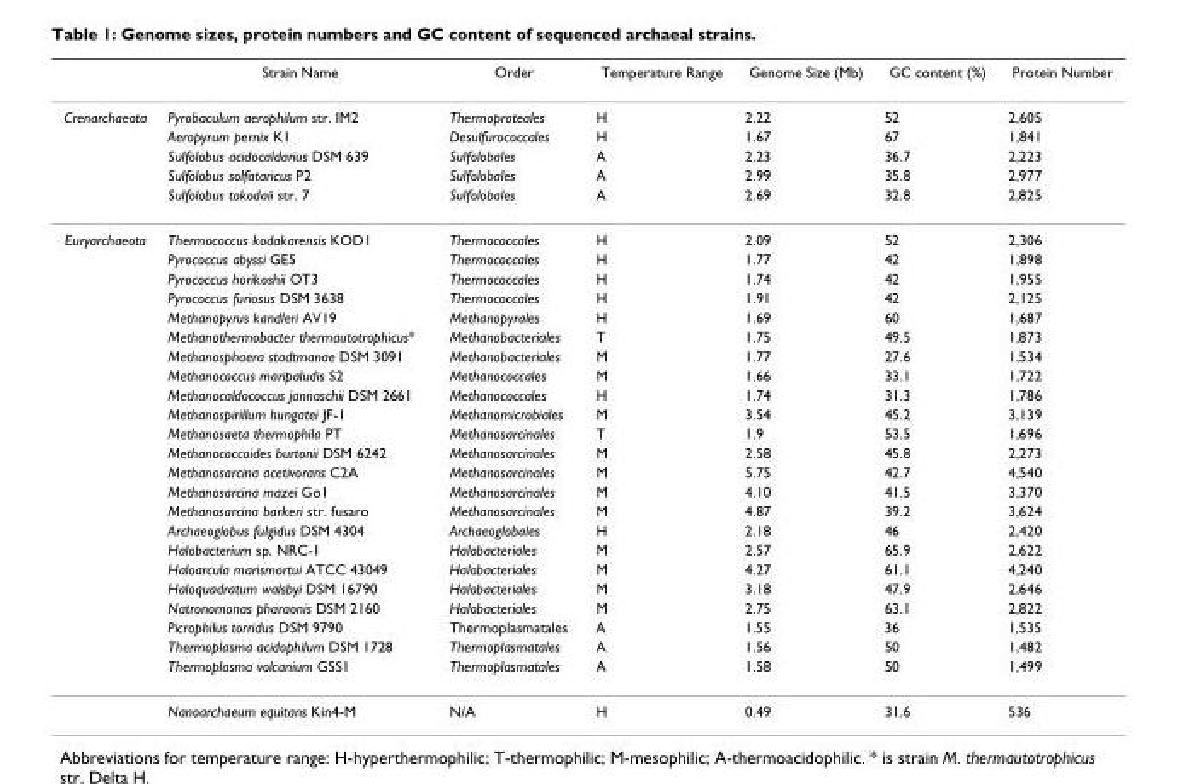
<table><thead><tr><td></td><td>Strain Name</td><td>Order</td><td>Temperature Range</td><td>Genome Size (Mb)</td><td>GC content (%)</td><td>Protein Number</td></tr></thead><tbody><tr><td rowspan="5">Crenarchaeota</td><td>Pyrobaculum aerophilum str. IM2</td><td>Thermoproteales</td><td>H</td><td>2.22</td><td>52</td><td>2,605</td></tr><tr><td>Aeropyrum pernix K1</td><td>Desulfurococcales</td><td>H</td><td>1.67</td><td>67</td><td>1,841</td></tr><tr><td>Sulfolobus acidocaldarius DSM 639</td><td>Sulfolobales</td><td>A</td><td>2.23</td><td>36.7</td><td>2,223</td></tr><tr><td>Sulfolobus solfataricus P2</td><td>Sulfolobales</td><td>A</td><td>2.99</td><td>35.8</td><td>2,977</td></tr><tr><td>Sulfolobus tokodaii str. 7</td><td>Sulfolobales</td><td>A</td><td>2.69</td><td>32.8</td><td>2,825</td></tr><tr><td rowspan="24">Euryarchaeota</td><td>Thermococcus kodakarensis KOD1</td><td>Thermococcales</td><td>H</td><td>2.09</td><td>52</td><td>2,306</td></tr><tr><td>Pyrococcus abyssi GE5</td><td>Thermococcales</td><td>H</td><td>1.77</td><td>42</td><td>1,898</td></tr><tr><td>Pyrococcus horikoshii OT3</td><td>Thermococcales</td><td>H</td><td>1.74</td><td>42</td><td>1,955</td></tr><tr><td>Pyrococcus furiosus DSM 3638</td><td>Thermococcales</td><td>H</td><td>1.91</td><td>42</td><td>2,125</td></tr><tr><td>Methanopyrus kandleri AV19</td><td>Methanopyrales</td><td>H</td><td>1.69</td><td>60</td><td>1,687</td></tr><tr><td>Methanothermobacter thermautotrophicus*</td><td>Methanobacteriales</td><td>T</td><td>1.75</td><td>49.5</td><td>1,873</td></tr><tr><td>Methanosphaera stadtmanae DSM 3091</td><td>Methanobacteriales</td><td>M</td><td>1.77</td><td>27.6</td><td>1,534</td></tr><tr><td>Methanococcus maripaludis S2</td><td>Methanococcales</td><td>M</td><td>1.66</td><td>33.1</td><td>1,722</td></tr><tr><td>Methanocaldococcus jannaschii DSM 2661</td><td>Methanococcales</td><td>H</td><td>1.74</td><td>31.3</td><td>1,786</td></tr><tr><td>Methanospirillum hungatei JF-1</td><td>Methanomicrobiales</td><td>M</td><td>3.54</td><td>45.2</td><td>3,139</td></tr><tr><td>Methanosaeta thermophila PT</td><td>Methanosarcinales</td><td>T</td><td>1.9</td><td>53.5</td><td>1,696</td></tr><tr><td>Methanococcoides burtonii DSM 6242</td><td>Methanosarcinales</td><td>M</td><td>2.58</td><td>45.8</td><td>2,273</td></tr><tr><td>Methanosarcina acetivorans C2A</td><td>Methanosarcinales</td><td>M</td><td>5.75</td><td>42.7</td><td>4,540</td></tr><tr><td>Methanosarcina mazei Go1</td><td>Methanosarcinales</td><td>M</td><td>4.10</td><td>41.5</td><td>3,370</td></tr><tr><td>Methanosarcina barkeri str. fusaro</td><td>Methanosarcinales</td><td>M</td><td>4.87</td><td>39.2</td><td>3,624</td></tr><tr><td>Archaeoglobus fulgidus DSM 4304</td><td>Archaeoglobales</td><td>H</td><td>2.18</td><td>46</td><td>2,420</td></tr><tr><td>Halobacterium sp. NRC-1</td><td>Halobacteriales</td><td>M</td><td>2.57</td><td>65.9</td><td>2,622</td></tr><tr><td>Haloarcula marismortui ATCC 43049</td><td>Halobacteriales</td><td>M</td><td>4.27</td><td>61.1</td><td>4,240</td></tr><tr><td>Haloquadratum walsbyi DSM 16790</td><td>Halobacteriales</td><td>M</td><td>3.18</td><td>47.9</td><td>2,646</td></tr><tr><td>Natronomonas pharaonis DSM 2160</td><td>Halobacteriales</td><td>M</td><td>2.75</td><td>63.1</td><td>2,822</td></tr><tr><td>Picrophilus torridus DSM 9790</td><td>Thermoplasmatales</td><td>A</td><td>1.55</td><td>36</td><td>1,535</td></tr><tr><td>Thermoplasma acidophilum DSM 1728</td><td>Thermoplasmatales</td><td>A</td><td>1.56</td><td>50</td><td>1,482</td></tr><tr><td>Thermoplasma volcanium GSS1</td><td>Thermoplasmatales</td><td>A</td><td>1.58</td><td>50</td><td>1,499</td></tr><tr><td>Nanoarchaeum equitans Kin4-M</td><td>N/A</td><td>H</td><td>0.49</td><td>31.6</td><td>536</td></tr></tbody></table>